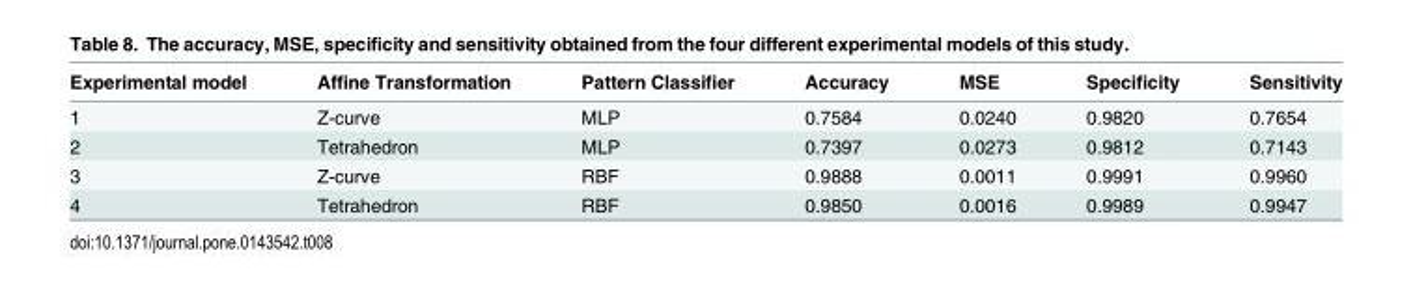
<table><thead><tr><td>Experimental model</td><td>Affine Transformation</td><td>Pattern Classifier</td><td>Accuracy</td><td>MSE</td><td>Specificity</td><td>Sensitivity</td></tr></thead><tbody><tr><td>1</td><td>Z-curve</td><td>MLP</td><td>0.7584</td><td>0.0240</td><td>0.9820</td><td>0.7654</td></tr><tr><td>2</td><td>Tetrahedron</td><td>MLP</td><td>0.7397</td><td>0.0273</td><td>0.9812</td><td>0.7143</td></tr><tr><td>3</td><td>Z-curve</td><td>RBF</td><td>0.9888</td><td>0.0011</td><td>0.9991</td><td>0.9960</td></tr><tr><td>4</td><td>Tetrahedron</td><td>RBF</td><td>0.9850</td><td>0.0016</td><td>0.9989</td><td>0.9947</td></tr></tbody></table>